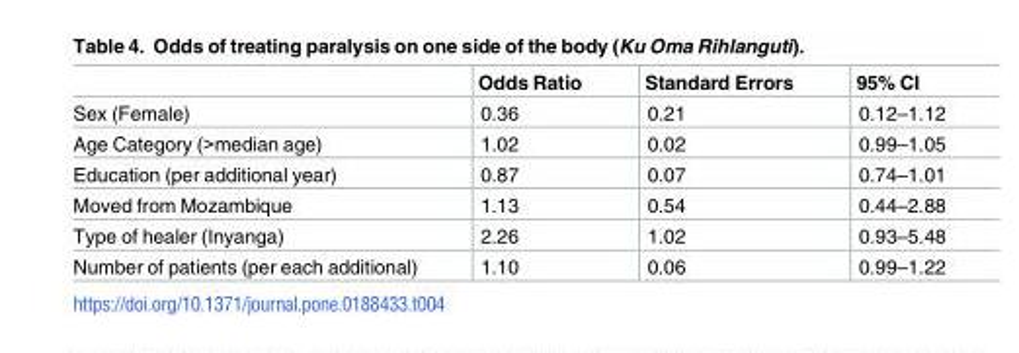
<table><thead><tr><td></td><td>Odds Ratio</td><td>Standard Errors</td><td>95% CI</td></tr></thead><tbody><tr><td>Sex (Female)</td><td>0.36</td><td>0.21</td><td>0.12–1.12</td></tr><tr><td>Age Category (&gt;median age)</td><td>1.02</td><td>0.02</td><td>0.99–1.05</td></tr><tr><td>Education (per additional year)</td><td>0.87</td><td>0.07</td><td>0.74–1.01</td></tr><tr><td>Moved from Mozambique</td><td>1.13</td><td>0.54</td><td>0.44–2.88</td></tr><tr><td>Type of healer (Inyanga)</td><td>2.26</td><td>1.02</td><td>0.93–5.48</td></tr><tr><td>Number of patients (per each additional)</td><td>1.10</td><td>0.06</td><td>0.99–1.22</td></tr></tbody></table>